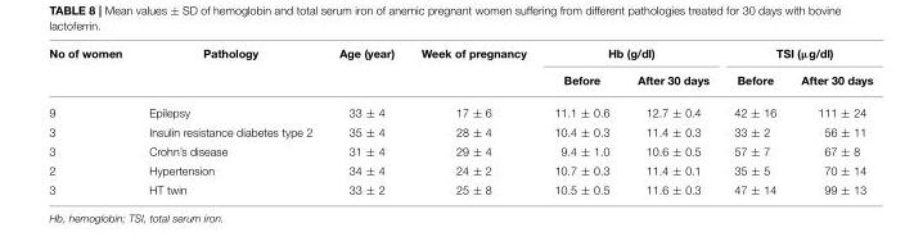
<table><thead><tr><td rowspan="2">No of women</td><td rowspan="2">Pathology</td><td rowspan="2">Age (year)</td><td rowspan="2">Week of pregnancy</td><td colspan="2">Hb (g/dl)</td><td colspan="2">TSI (µg/dl)</td></tr><tr><td>Before</td><td>After 30 days</td><td>Before</td><td>After 30 days</td></tr></thead><tbody><tr><td>9</td><td>Epilepsy</td><td>33 ± 4</td><td>17 ± 6</td><td>11.1 ± 0.6</td><td>12.7 ± 0.4</td><td>42 ± 16</td><td>111 ± 24</td></tr><tr><td>3</td><td>Insulin resistance diabetes type 2</td><td>35 ± 4</td><td>28 ± 4</td><td>10.4 ± 0.3</td><td>11.4 ± 0.3</td><td>33 ± 2</td><td>56 ± 11</td></tr><tr><td>3</td><td>Crohn’s disease</td><td>31 ± 4</td><td>29 ± 4</td><td>9.4 ± 1.0</td><td>10.6 ± 0.5</td><td>57 ± 7</td><td>67 ± 8</td></tr><tr><td>2</td><td>Hypertension</td><td>34 ± 4</td><td>24 ± 2</td><td>10.7 ± 0.3</td><td>11.4 ± 0.1</td><td>35 ± 5</td><td>70 ± 14</td></tr><tr><td>3</td><td>HT twin</td><td>33 ± 2</td><td>25 ± 8</td><td>10.5 ± 0.5</td><td>11.6 ± 0.3</td><td>47 ± 14</td><td>99 ± 13</td></tr></tbody></table>